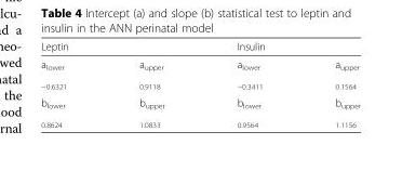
<table><thead><tr><td colspan="2">Leptin</td><td colspan="2">Insulin</td></tr><tr><td>a<sub>lower</sub></td><td>a<sub>upper</sub></td><td>a<sub>lower</sub></td><td>a<sub>upper</sub></td></tr></thead><tbody><tr><td><sub>−0.6321</sub></td><td><sub>0.9118</sub></td><td><sub>−0.3411</sub></td><td><sub>0.1564</sub></td></tr><tr><td>b<sub>lower</sub></td><td>b<sub>upper</sub></td><td>b<sub>lower</sub></td><td>b<sub>upper</sub></td></tr><tr><td><sub>0.8624</sub></td><td><sub>1.0833</sub></td><td><sub>0.9564</sub></td><td><sub>1.1156</sub></td></tr></tbody></table>